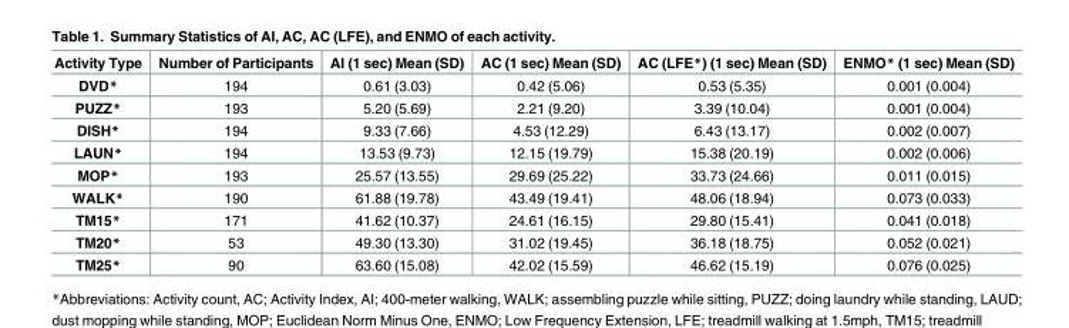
<table><thead><tr><td>Activity Type</td><td>Number of Participants</td><td>AI (1 sec) Mean (SD)</td><td>AC (1 sec) Mean (SD)</td><td>AC (LFE*) (1 sec) Mean (SD)</td><td>ENMO* (1 sec) Mean (SD)</td></tr></thead><tbody><tr><td>DVD*</td><td>194</td><td>0.61 (3.03)</td><td>0.42 (5.06)</td><td>0.53 (5.35)</td><td>0.001 (0.004)</td></tr><tr><td>PUZZ*</td><td>193</td><td>5.20 (5.69)</td><td>2.21 (9.20)</td><td>3.39 (10.04)</td><td>0.001 (0.004)</td></tr><tr><td>DISH*</td><td>194</td><td>9.33 (7.66)</td><td>4.53 (12.29)</td><td>6.43 (13.17)</td><td>0.002 (0.007)</td></tr><tr><td>LAUN*</td><td>194</td><td>13.53 (9.73)</td><td>12.15 (19.79)</td><td>15.38 (20.19)</td><td>0.002 (0.006)</td></tr><tr><td>MOP*</td><td>193</td><td>25.57 (13.55)</td><td>29.69 (25.22)</td><td>33.73 (24.66)</td><td>0.011 (0.015)</td></tr><tr><td>WALK*</td><td>190</td><td>61.88 (19.78)</td><td>43.49 (19.41)</td><td>48.06 (18.94)</td><td>0.073 (0.033)</td></tr><tr><td>TM15*</td><td>171</td><td>41.62 (10.37)</td><td>24.61 (16.15)</td><td>29.80 (15.41)</td><td>0.041 (0.018)</td></tr><tr><td>TM20*</td><td>53</td><td>49.30 (13.30)</td><td>31.02 (19.45)</td><td>36.18 (18.75)</td><td>0.052 (0.021)</td></tr><tr><td>TM25*</td><td>90</td><td>63.60 (15.08)</td><td>42.02 (15.59)</td><td>46.62 (15.19)</td><td>0.076 (0.025)</td></tr></tbody></table>